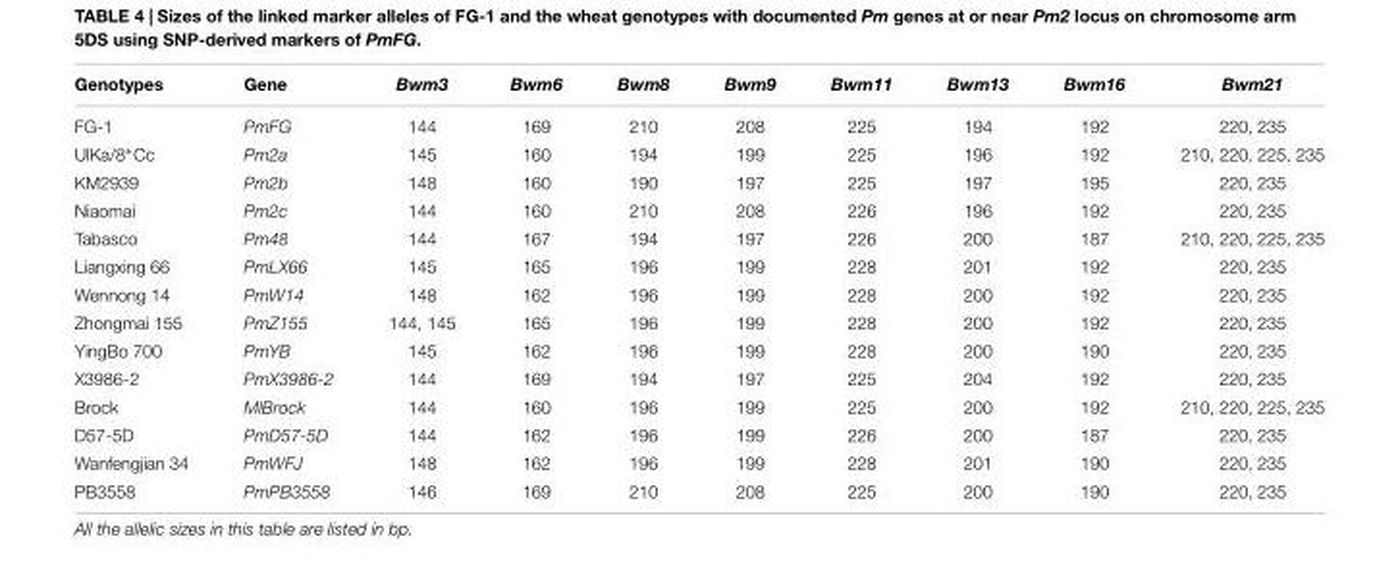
<table><thead><tr><td>Genotypes</td><td>Gene</td><td>Bwm3</td><td>Bwm6</td><td>Bwm8</td><td>Bwm9</td><td>Bwm11</td><td>Bwm13</td><td>Bwm16</td><td>Bwm21</td></tr></thead><tbody><tr><td>FG-1</td><td>PmFG</td><td>144</td><td>169</td><td>210</td><td>208</td><td>225</td><td>194</td><td>192</td><td>220, 235</td></tr><tr><td>UlKa/8∗Cc</td><td>Pm2a</td><td>145</td><td>160</td><td>194</td><td>199</td><td>225</td><td>196</td><td>192</td><td>210, 220, 225, 235</td></tr><tr><td>KM2939</td><td>Pm2b</td><td>148</td><td>160</td><td>190</td><td>197</td><td>225</td><td>197</td><td>195</td><td>220, 235</td></tr><tr><td>Niaomai</td><td>Pm2c</td><td>144</td><td>160</td><td>210</td><td>208</td><td>226</td><td>196</td><td>192</td><td>220, 235</td></tr><tr><td>Tabasco</td><td>Pm48</td><td>144</td><td>167</td><td>194</td><td>197</td><td>226</td><td>200</td><td>187</td><td>210, 220, 225, 235</td></tr><tr><td>Liangxing 66</td><td>PmLX66</td><td>145</td><td>165</td><td>196</td><td>199</td><td>228</td><td>201</td><td>192</td><td>220, 235</td></tr><tr><td>Wennong 14</td><td>PmW14</td><td>148</td><td>162</td><td>196</td><td>199</td><td>228</td><td>200</td><td>192</td><td>220, 235</td></tr><tr><td>Zhongmai 155</td><td>PmZ155</td><td>144, 145</td><td>165</td><td>196</td><td>199</td><td>228</td><td>200</td><td>192</td><td>220, 235</td></tr><tr><td>YingBo 700</td><td>PmYB</td><td>145</td><td>162</td><td>196</td><td>199</td><td>228</td><td>200</td><td>190</td><td>220, 235</td></tr><tr><td>X3986-2</td><td>PmX3986-2</td><td>144</td><td>169</td><td>194</td><td>197</td><td>225</td><td>204</td><td>192</td><td>220, 235</td></tr><tr><td>Brock</td><td>MlBrock</td><td>144</td><td>160</td><td>196</td><td>199</td><td>225</td><td>200</td><td>192</td><td>210, 220, 225, 235</td></tr><tr><td>D57-5D</td><td>PmD57-5D</td><td>144</td><td>162</td><td>196</td><td>199</td><td>226</td><td>200</td><td>187</td><td>220, 235</td></tr><tr><td>Wanfengjian 34</td><td>PmWFJ</td><td>148</td><td>162</td><td>196</td><td>199</td><td>228</td><td>201</td><td>190</td><td>220, 235</td></tr><tr><td>PB3558</td><td>PmPB3558</td><td>146</td><td>169</td><td>210</td><td>208</td><td>225</td><td>200</td><td>190</td><td>220, 235</td></tr></tbody></table>